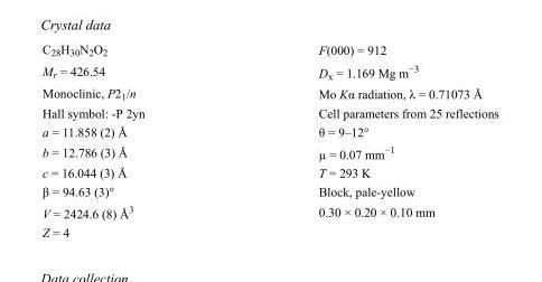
<table><tbody><tr><td>C<sub>28</sub>H<sub>30</sub>N<sub>2</sub>O<sub>2</sub></td><td>F(000) = 912</td></tr><tr><td>M<sub>r</sub> = 426.54</td><td>D<sub>x</sub> = 1.169 Mg m<sup>−3</sup></td></tr><tr><td>Monoclinic, P2<sub>1</sub>/n</td><td>Mo Kα radiation, λ = 0.71073 Å</td></tr><tr><td>Hall symbol: -P 2yn</td><td>Cell parameters from 25 reflections</td></tr><tr><td>a = 11.858 (2) Å</td><td>θ = 9–12°</td></tr><tr><td>b = 12.786 (3) Å</td><td>µ = 0.07 mm<sup>−1</sup></td></tr><tr><td>c = 16.044 (3) Å</td><td>T = 293 K</td></tr><tr><td>β = 94.63 (3)°</td><td>Block, pale-yellow</td></tr><tr><td>V = 2424.6 (8) Å<sup>3</sup></td><td>0.30 × 0.20 × 0.10 mm</td></tr><tr><td>Z = 4</td><td></td></tr></tbody></table>